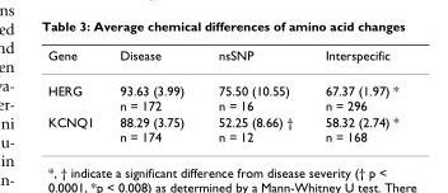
<table><thead><tr><td>Gene</td><td>Disease</td><td>nsSNP</td><td>Interspecific</td></tr></thead><tbody><tr><td>HERG</td><td>93.63 (3.99) n = 172</td><td>75.50 (10.55) n = 16</td><td>67.37 (1.97) * n = 296</td></tr><tr><td>KCNQ1</td><td>88.29 (3.75) n = 174</td><td>52.25 (8.66) † n = 12</td><td>58.32 (2.74) * n = 168</td></tr></tbody></table>